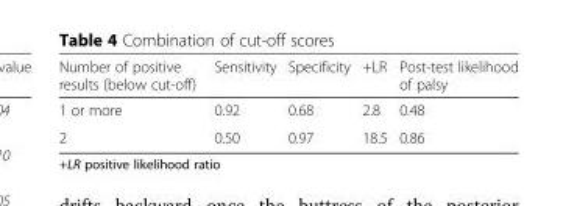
<table><thead><tr><td>Number of positive results (below cut-off)</td><td>Sensitivity</td><td>Specificity</td><td>+LR</td><td>Post-test likelihood of palsy</td></tr></thead><tbody><tr><td>1 or more</td><td>0.92</td><td>0.68</td><td>2.8</td><td>0.48</td></tr><tr><td>2</td><td>0.50</td><td>0.97</td><td>18.5</td><td>0.86</td></tr></tbody></table>